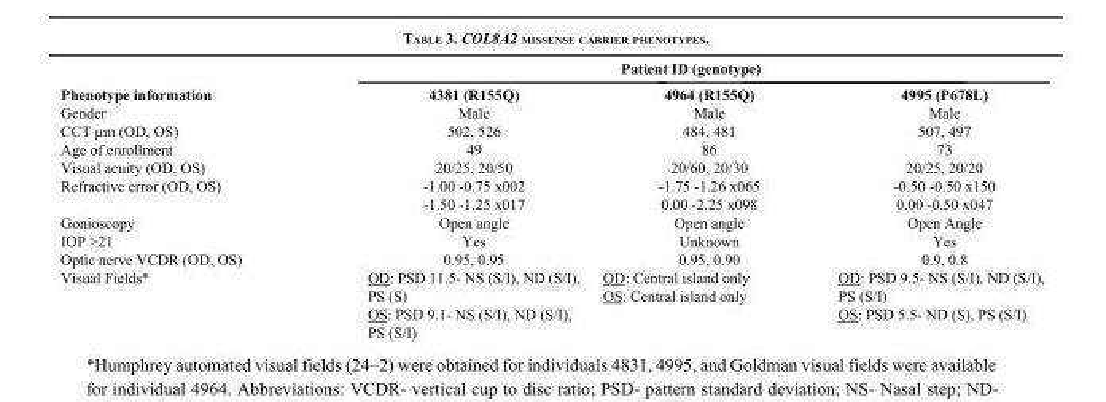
<table><thead><tr><td rowspan="2">Phenotype information</td><td colspan="3">Patient ID (genotype)</td></tr><tr><td>4381 (R155Q)</td><td>4964 (R155Q)</td><td>4995 (P678L)</td></tr></thead><tbody><tr><td>Gender</td><td>Male</td><td>Male</td><td>Male</td></tr><tr><td>CCT µm (OD, OS)</td><td>502, 526</td><td>484, 481</td><td>507, 497</td></tr><tr><td>Age of enrollment</td><td>49</td><td>86</td><td>73</td></tr><tr><td>Visual acuity (OD, OS)</td><td>20/25, 20/50</td><td>20/60, 20/30</td><td>20/25, 20/20</td></tr><tr><td>Refractive error (OD, OS)</td><td>-1.00 -0.75 x002 -1.50 -1.25 x017</td><td>-1.75 -1.26 x065 0.00 -2.25 x098</td><td>-0.50 -0.50 x150 0.00 -0.50 x047</td></tr><tr><td>Gonioscopy</td><td>Open angle</td><td>Open angle</td><td>Open Angle</td></tr><tr><td>IOP &gt;21</td><td>Yes</td><td>Unknown</td><td>Yes</td></tr><tr><td>Optic nerve VCDR (OD, OS)</td><td>0.95, 0.95</td><td>0.95, 0.90</td><td>0.9, 0.8</td></tr><tr><td>Visual Fields*</td><td>OD: PSD 11.5- NS (S/I), ND (S/I), PS (S) OS: PSD 9.1- NS (S/I), ND (S/I), PS (S/I)</td><td>OD: Central island only OS: Central island only</td><td>OD: PSD 9.5- NS (S/I), ND (S/I), PS (S/I) OS: PSD 5.5- ND (S), PS (S/I)</td></tr></tbody></table>